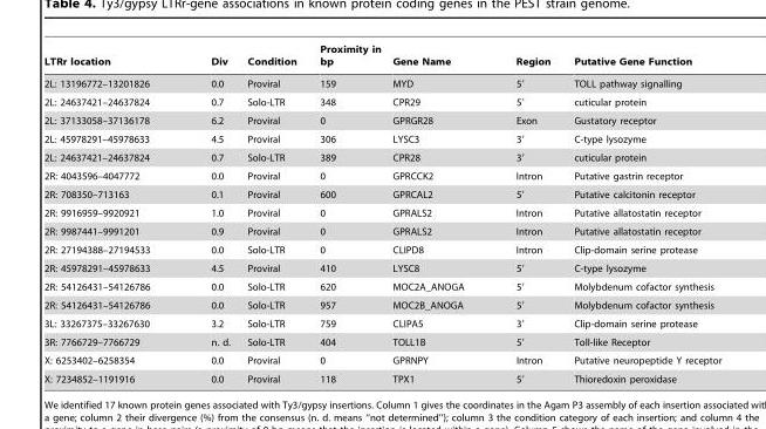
<table><thead><tr><td>LTRr location</td><td>Div</td><td>Condition</td><td>Proximity in bp</td><td>Gene Name</td><td>Region</td><td>Putative Gene Function</td></tr></thead><tbody><tr><td>2L: 13196772–13201826</td><td>0.0</td><td>Proviral</td><td>159</td><td>MYD</td><td>5′</td><td>TOLL pathway signalling</td></tr><tr><td>2L: 24637421–24637824</td><td>0.7</td><td>Solo-LTR</td><td>348</td><td>CPR29</td><td>5′</td><td>cuticular protein</td></tr><tr><td>2L: 37133058–37136178</td><td>6.2</td><td>Proviral</td><td>0</td><td>GPRGR28</td><td>Exon</td><td>Gustatory receptor</td></tr><tr><td>2L: 45978291–45978633</td><td>4.5</td><td>Proviral</td><td>306</td><td>LYSC3</td><td>3′</td><td>C-type lysozyme</td></tr><tr><td>2L: 24637421–24637824</td><td>0.7</td><td>Solo-LTR</td><td>389</td><td>CPR28</td><td>3′</td><td>cuticular protein</td></tr><tr><td>2R: 4043596–4047772</td><td>0.0</td><td>Proviral</td><td>0</td><td>GPRCCK2</td><td>Intron</td><td>Putative gastrin receptor</td></tr><tr><td>2R: 708350–713163</td><td>0.1</td><td>Proviral</td><td>600</td><td>GPRCAL2</td><td>5′</td><td>Putative calcitonin receptor</td></tr><tr><td>2R: 9916959–9920921</td><td>1.0</td><td>Proviral</td><td>0</td><td>GPRALS2</td><td>Intron</td><td>Putative allatostatin receptor</td></tr><tr><td>2R: 9987441–9991201</td><td>0.9</td><td>Proviral</td><td>0</td><td>GPRALS2</td><td>Intron</td><td>Putative allatostatin receptor</td></tr><tr><td>2R: 27194388–27194533</td><td>0.0</td><td>Solo-LTR</td><td>0</td><td>CLIPD8</td><td>Intron</td><td>Clip-domain serine protease</td></tr><tr><td>2R: 45978291–45978633</td><td>4.5</td><td>Proviral</td><td>410</td><td>LYSC8</td><td>5′</td><td>C-type lysozyme</td></tr><tr><td>2R: 54126431–54126786</td><td>0.0</td><td>Solo-LTR</td><td>620</td><td>MOC2A_ANOGA</td><td>5′</td><td>Molybdenum cofactor synthesis</td></tr><tr><td>2R: 54126431–54126786</td><td>0.0</td><td>Solo-LTR</td><td>957</td><td>MOC2B_ANOGA</td><td>5′</td><td>Molybdenum cofactor synthesis</td></tr><tr><td>3L: 33267375–33267630</td><td>3.2</td><td>Solo-LTR</td><td>759</td><td>CLIPA5</td><td>3′</td><td>Clip-domain serine protease</td></tr><tr><td>3R: 7766729–7766729</td><td>n. d.</td><td>Solo-LTR</td><td>404</td><td>TOLL1B</td><td>5′</td><td>Toll-like Receptor</td></tr><tr><td>X: 6253402–6258354</td><td>0.0</td><td>Proviral</td><td>0</td><td>GPRNPY</td><td>Intron</td><td>Putative neuropeptide Y receptor</td></tr><tr><td>X: 7234852–1191916</td><td>0.0</td><td>Proviral</td><td>118</td><td>TPX1</td><td>5′</td><td>Thioredoxin peroxidase</td></tr></tbody></table>